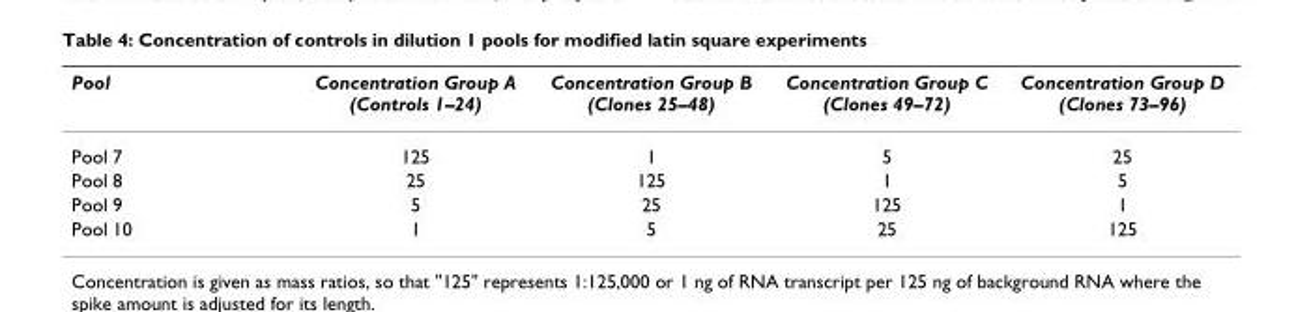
<table><thead><tr><td>Pool</td><td>Concentration Group A (Controls 1–24)</td><td>Concentration Group B (Clones 25–48)</td><td>Concentration Group C (Clones 49–72)</td><td>Concentration Group D (Clones 73–96)</td></tr></thead><tbody><tr><td>Pool 7</td><td>125</td><td>1</td><td>5</td><td>25</td></tr><tr><td>Pool 8</td><td>25</td><td>125</td><td>1</td><td>5</td></tr><tr><td>Pool 9</td><td>5</td><td>25</td><td>125</td><td>1</td></tr><tr><td>Pool 10</td><td>1</td><td>5</td><td>25</td><td>125</td></tr></tbody></table>